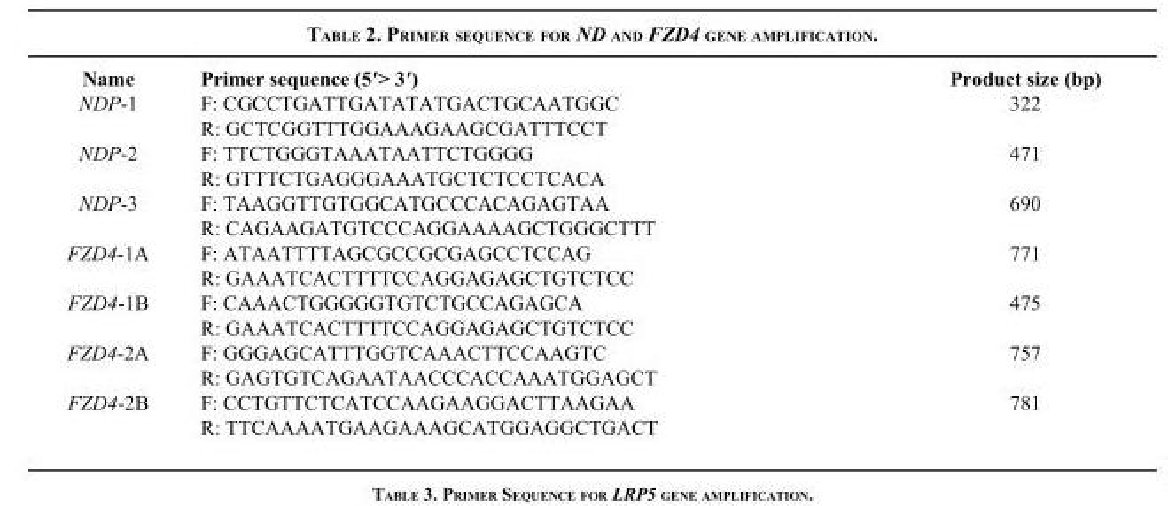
<table><thead><tr><td>Name</td><td>Primer sequence (5′&gt; 3′)</td><td>Product size (bp)</td></tr></thead><tbody><tr><td rowspan="2">NDP-1</td><td>F: CGCCTGATTGATATATGACTGCAATGGC</td><td rowspan="2">322</td></tr><tr><td>R: GCTCGGTTTGGAAAGAAGCGATTTCCT</td></tr><tr><td rowspan="2">NDP-2</td><td>F: TTCTGGGTAAATAATTCTGGGG</td><td rowspan="2">471</td></tr><tr><td>R: GTTTCTGAGGGAAATGCTCTCCTCACA</td></tr><tr><td rowspan="2">NDP-3</td><td>F: TAAGGTTGTGGCATGCCCACAGAGTAA</td><td rowspan="2">690</td></tr><tr><td>R: CAGAAGATGTCCCAGGAAAAGCTGGGCTTT</td></tr><tr><td rowspan="2">FZD4-1A</td><td>F: ATAATTTTAGCGCCGCGAGCCTCCAG</td><td rowspan="2">771</td></tr><tr><td>R: GAAATCACTTTTCCAGGAGAGCTGTCTCC</td></tr><tr><td rowspan="2">FZD4-1B</td><td>F: CAAACTGGGGGTGTCTGCCAGAGCA</td><td rowspan="2">475</td></tr><tr><td>R: GAAATCACTTTTCCAGGAGAGCTGTCTCC</td></tr><tr><td rowspan="2">FZD4-2A</td><td>F: GGGAGCATTTGGTCAAACTTCCAAGTC</td><td rowspan="2">757</td></tr><tr><td>R: GAGTGTCAGAATAACCCACCAAATGGAGCT</td></tr><tr><td rowspan="2">FZD4-2B</td><td>F: CCTGTTCTCATCCAAGAAGGACTTAAGAA</td><td rowspan="2">781</td></tr><tr><td>R: TTCAAAATGAAGAAAGCATGGAGGCTGACT</td></tr></tbody></table>